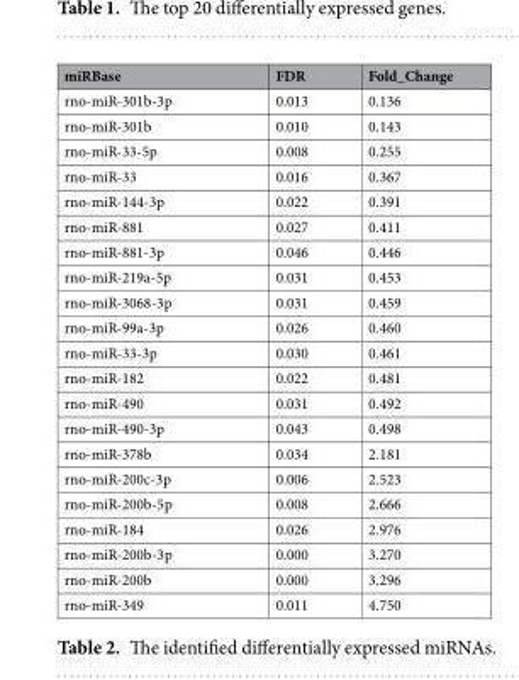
<table><thead><tr><td>miRBase</td><td>FDR</td><td>Fold_Change</td></tr></thead><tbody><tr><td>rno-miR-301b-3p</td><td>0.013</td><td>0.136</td></tr><tr><td>rno-miR-301b</td><td>0.010</td><td>0.143</td></tr><tr><td>rno-miR-33-5p</td><td>0.008</td><td>0.255</td></tr><tr><td>rno-miR-33</td><td>0.016</td><td>0.367</td></tr><tr><td>rno-miR-144-3p</td><td>0.022</td><td>0.391</td></tr><tr><td>rno-miR-881</td><td>0.027</td><td>0.411</td></tr><tr><td>rno-miR-881-3p</td><td>0.046</td><td>0.446</td></tr><tr><td>rno-miR-219a-5p</td><td>0.031</td><td>0.453</td></tr><tr><td>rno-miR-3068-3p</td><td>0.031</td><td>0.459</td></tr><tr><td>rno-miR-99a-3p</td><td>0.026</td><td>0.460</td></tr><tr><td>rno-miR-33-3p</td><td>0.030</td><td>0.461</td></tr><tr><td>rno-miR-182</td><td>0.022</td><td>0.481</td></tr><tr><td>rno-miR-490</td><td>0.031</td><td>0.492</td></tr><tr><td>rno-miR-490-3p</td><td>0.043</td><td>0.498</td></tr><tr><td>rno-miR-378b</td><td>0.034</td><td>2.181</td></tr><tr><td>rno-miR-200c-3p</td><td>0.006</td><td>2.523</td></tr><tr><td>rno-miR-200b-5p</td><td>0.008</td><td>2.666</td></tr><tr><td>rno-miR-184</td><td>0.026</td><td>2.976</td></tr><tr><td>rno-miR-200b-3p</td><td>0.000</td><td>3.270</td></tr><tr><td>rno-miR-200b</td><td>0.000</td><td>3.296</td></tr><tr><td>rno-miR-349</td><td>0.011</td><td>4.750</td></tr></tbody></table>